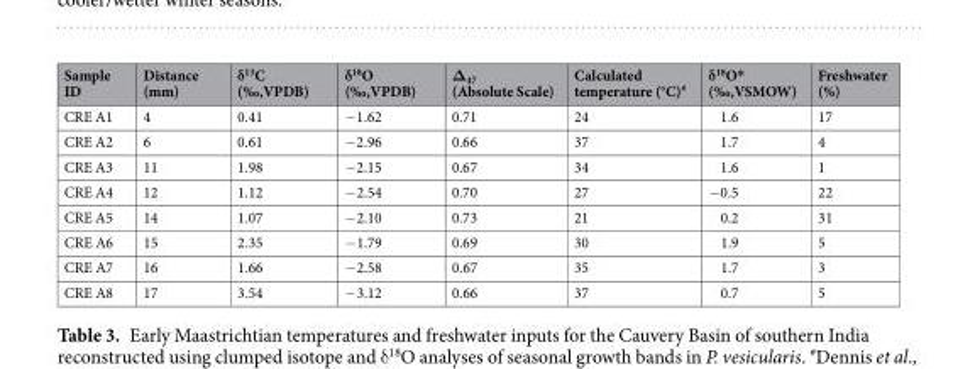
<table><thead><tr><td>Sample ID</td><td>Distance (mm)</td><td>δ<sup>13</sup>C (‰,VPDB)</td><td>δ<sup>18</sup>O (‰,VPDB)</td><td>Δ<sub>47</sub> (Absolute Scale)</td><td>Calculated temperature (°C)<sup>#</sup></td><td>δ<sup>18</sup>O* (‰,VSMOW)</td><td>Freshwater (%)</td></tr></thead><tbody><tr><td>CRE A1</td><td>4</td><td>0.41</td><td>−1.62</td><td>0.71</td><td>24</td><td>1.6</td><td>17</td></tr><tr><td>CRE A2</td><td>6</td><td>0.61</td><td>−2.96</td><td>0.66</td><td>37</td><td>1.7</td><td>4</td></tr><tr><td>CRE A3</td><td>11</td><td>1.98</td><td>−2.15</td><td>0.67</td><td>34</td><td>1.6</td><td>1</td></tr><tr><td>CRE A4</td><td>12</td><td>1.12</td><td>−2.54</td><td>0.70</td><td>27</td><td>−0.5</td><td>22</td></tr><tr><td>CRE A5</td><td>14</td><td>1.07</td><td>−2.10</td><td>0.73</td><td>21</td><td>0.2</td><td>31</td></tr><tr><td>CRE A6</td><td>15</td><td>2.35</td><td>−1.79</td><td>0.69</td><td>30</td><td>1.9</td><td>5</td></tr><tr><td>CRE A7</td><td>16</td><td>1.66</td><td>−2.58</td><td>0.67</td><td>35</td><td>1.7</td><td>3</td></tr><tr><td>CRE A8</td><td>17</td><td>3.54</td><td>−3.12</td><td>0.66</td><td>37</td><td>0.7</td><td>5</td></tr></tbody></table>